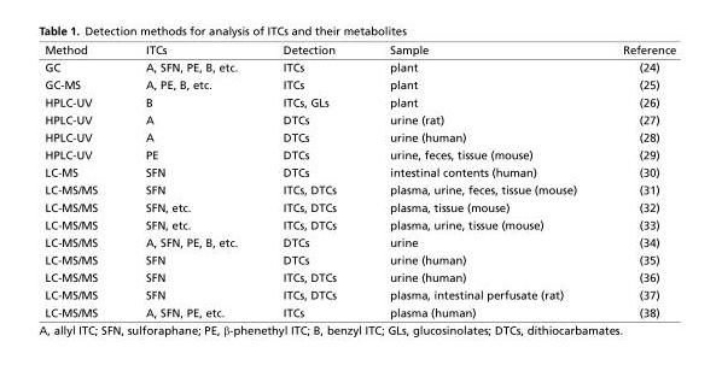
<table><thead><tr><td>Method</td><td>ITCs</td><td>Detection</td><td>Sample</td><td>Reference</td></tr></thead><tbody><tr><td>GC</td><td>A, SFN, PE, B, etc.</td><td>ITCs</td><td>plant</td><td>(24)</td></tr><tr><td>GC-MS</td><td>A, PE, B, etc.</td><td>ITCs</td><td>plant</td><td>(25)</td></tr><tr><td>HPLC-UV</td><td>B</td><td>ITCs, GLs</td><td>plant</td><td>(26)</td></tr><tr><td>HPLC-UV</td><td>A</td><td>DTCs</td><td>urine (rat)</td><td>(27)</td></tr><tr><td>HPLC-UV</td><td>A</td><td>DTCs</td><td>urine (human)</td><td>(28)</td></tr><tr><td>HPLC-UV</td><td>PE</td><td>DTCs</td><td>urine, feces, tissue (mouse)</td><td>(29)</td></tr><tr><td>LC-MS</td><td>SFN</td><td>DTCs</td><td>intestinal contents (human)</td><td>(30)</td></tr><tr><td>LC-MS/MS</td><td>SFN</td><td>ITCs, DTCs</td><td>plasma, urine, feces, tissue (mouse)</td><td>(31)</td></tr><tr><td>LC-MS/MS</td><td>SFN, etc.</td><td>ITCs, DTCs</td><td>plasma, tissue (mouse)</td><td>(32)</td></tr><tr><td>LC-MS/MS</td><td>SFN, etc.</td><td>ITCs, DTCs</td><td>plasma, urine, tissue (mouse)</td><td>(33)</td></tr><tr><td>LC-MS/MS</td><td>A, SFN, PE, B, etc.</td><td>DTCs</td><td>urine</td><td>(34)</td></tr><tr><td>LC-MS/MS</td><td>SFN</td><td>DTCs</td><td>urine (human)</td><td>(35)</td></tr><tr><td>LC-MS/MS</td><td>SFN</td><td>ITCs, DTCs</td><td>urine (human)</td><td>(36)</td></tr><tr><td>LC-MS/MS</td><td>SFN</td><td>ITCs, DTCs</td><td>plasma, intestinal perfusate (rat)</td><td>(37)</td></tr><tr><td>LC-MS/MS</td><td>A, SFN, PE, etc.</td><td>ITCs</td><td>plasma (human)</td><td>(38)</td></tr></tbody></table>